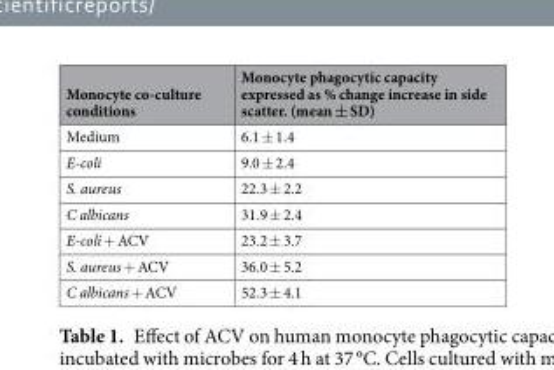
<table><thead><tr><td>Monocyte co-culture conditions</td><td>Monocyte phagocytic capacity expressed as % change increase in side scatter. (mean ± SD)</td></tr></thead><tbody><tr><td>Medium</td><td>6.1 ± 1.4</td></tr><tr><td>E-coli</td><td>9.0 ± 2.4</td></tr><tr><td>S. aureus</td><td>22.3 ± 2.2</td></tr><tr><td>C albicans</td><td>31.9 ± 2.4</td></tr><tr><td>E-coli + ACV</td><td>23.2 ± 3.7</td></tr><tr><td>S. aureus + ACV</td><td>36.0 ± 5.2</td></tr><tr><td>C albicans + ACV</td><td>52.3 ± 4.1</td></tr></tbody></table>